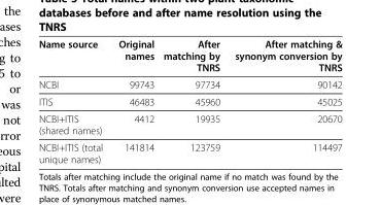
<table><thead><tr><td>Name source</td><td>Original names</td><td>After matching by TNRS</td><td>After matching &amp; synonym conversion by TNRS</td></tr></thead><tbody><tr><td>NCBI</td><td>99743</td><td>97734</td><td>90142</td></tr><tr><td>ITIS</td><td>46483</td><td>45960</td><td>45025</td></tr><tr><td>NCBI+ITIS (shared names)</td><td>4412</td><td>19935</td><td>20670</td></tr><tr><td>NCBI+ITIS (total unique names)</td><td>141814</td><td>123759</td><td>114497</td></tr></tbody></table>